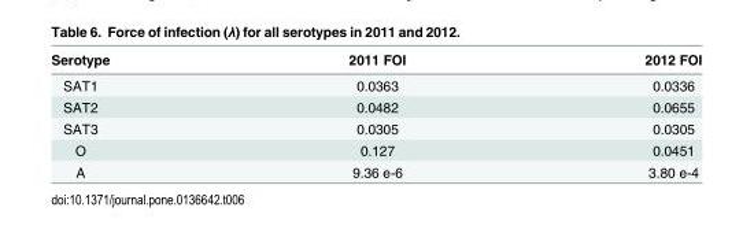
<table><thead><tr><td>Serotype</td><td>2011 FOI</td><td>2012 FOI</td></tr></thead><tbody><tr><td>SAT1</td><td>0.0363</td><td>0.0336</td></tr><tr><td>SAT2</td><td>0.0482</td><td>0.0655</td></tr><tr><td>SAT3</td><td>0.0305</td><td>0.0305</td></tr><tr><td>O</td><td>0.127</td><td>0.0451</td></tr><tr><td>A</td><td>9.36 e-6</td><td>3.80 e-4</td></tr></tbody></table>